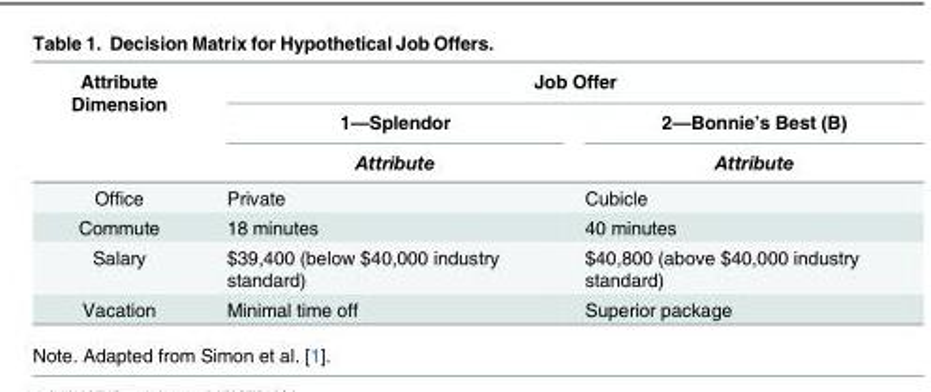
<table><thead><tr><td rowspan="3">Attribute Dimension</td><td colspan="2">Job Offer</td></tr><tr><td rowspan="2">1—Splendor Attribute</td><td rowspan="2">2—Bonnie’s Best (B) Attribute</td></tr><tr></tr></thead><tbody><tr><td>Office</td><td>Private</td><td>Cubicle</td></tr><tr><td>Commute</td><td>18 minutes</td><td>40 minutes</td></tr><tr><td>Salary</td><td>$39,400 (below $40,000 industry standard)</td><td>$40,800 (above $40,000 industry standard)</td></tr><tr><td>Vacation</td><td>Minimal time off</td><td>Superior package</td></tr></tbody></table>